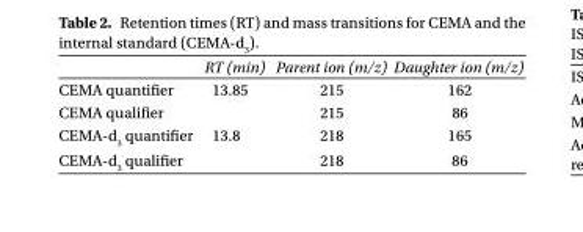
<table><thead><tr><td></td><td>RT (min)</td><td>Parent ion (m/z)</td><td>Daughter ion (m/z)</td></tr></thead><tbody><tr><td>CEMA quantifier</td><td>13.85</td><td>215</td><td>162</td></tr><tr><td>CEMA qualifier</td><td></td><td>215</td><td>86</td></tr><tr><td>CEMA-d<sub>3</sub> quantifier</td><td>13.8</td><td>218</td><td>165</td></tr><tr><td>CEMA-d<sub>3</sub> qualifier</td><td></td><td>218</td><td>86</td></tr></tbody></table>